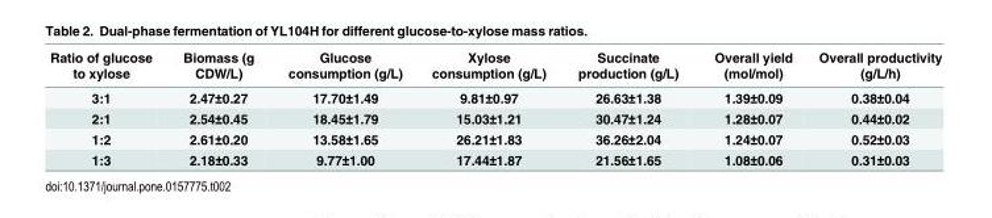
<table><thead><tr><td>Ratio of glucose to xylose</td><td>Biomass (g CDW/L)</td><td>Glucose consumption (g/L)</td><td>Xylose consumption (g/L)</td><td>Succinate production (g/L)</td><td>Overall yield (mol/mol)</td><td>Overall productivity (g/L/h)</td></tr></thead><tbody><tr><td>3:1</td><td>2.47±0.27</td><td>17.70±1.49</td><td>9.81±0.97</td><td>26.63±1.38</td><td>1.39±0.09</td><td>0.38±0.04</td></tr><tr><td>2:1</td><td>2.54±0.45</td><td>18.45±1.79</td><td>15.03±1.21</td><td>30.47±1.24</td><td>1.28±0.07</td><td>0.44±0.02</td></tr><tr><td>1:2</td><td>2.61±0.20</td><td>13.58±1.65</td><td>26.21±1.83</td><td>36.26±2.04</td><td>1.24±0.07</td><td>0.52±0.03</td></tr><tr><td>1:3</td><td>2.18±0.33</td><td>9.77±1.00</td><td>17.44±1.87</td><td>21.56±1.65</td><td>1.08±0.06</td><td>0.31±0.03</td></tr></tbody></table>